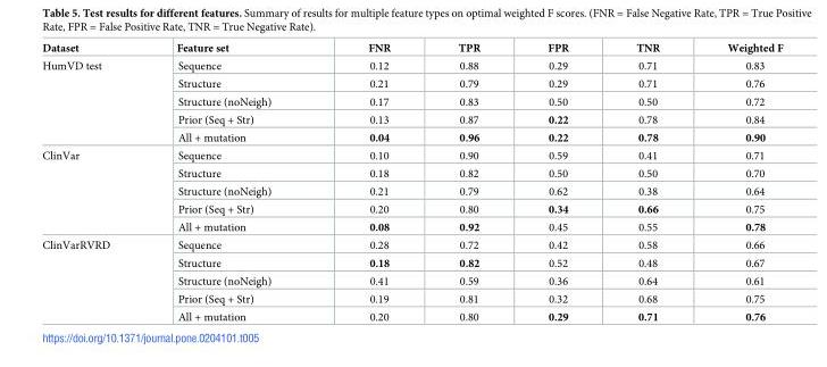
<table><thead><tr><td>Dataset</td><td>Feature set</td><td>FNR</td><td>TPR</td><td>FPR</td><td>TNR</td><td>Weighted F</td></tr></thead><tbody><tr><td rowspan="5">HumVD test</td><td>Sequence</td><td>0.12</td><td>0.88</td><td>0.29</td><td>0.71</td><td>0.83</td></tr><tr><td>Structure</td><td>0.21</td><td>0.79</td><td>0.29</td><td>0.71</td><td>0.76</td></tr><tr><td>Structure (noNeigh)</td><td>0.17</td><td>0.83</td><td>0.50</td><td>0.50</td><td>0.72</td></tr><tr><td>Prior (Seq + Str)</td><td>0.13</td><td>0.87</td><td>0.22</td><td>0.78</td><td>0.84</td></tr><tr><td>All + mutation</td><td>0.04</td><td>0.96</td><td>0.22</td><td>0.78</td><td>0.90</td></tr><tr><td rowspan="5">ClinVar</td><td>Sequence</td><td>0.10</td><td>0.90</td><td>0.59</td><td>0.41</td><td>0.71</td></tr><tr><td>Structure</td><td>0.18</td><td>0.82</td><td>0.50</td><td>0.50</td><td>0.70</td></tr><tr><td>Structure (noNeigh)</td><td>0.21</td><td>0.79</td><td>0.62</td><td>0.38</td><td>0.64</td></tr><tr><td>Prior (Seq + Str)</td><td>0.20</td><td>0.80</td><td>0.34</td><td>0.66</td><td>0.75</td></tr><tr><td>All + mutation</td><td>0.08</td><td>0.92</td><td>0.45</td><td>0.55</td><td>0.78</td></tr><tr><td rowspan="5">ClinVarRVRD</td><td>Sequence</td><td>0.28</td><td>0.72</td><td>0.42</td><td>0.58</td><td>0.66</td></tr><tr><td>Structure</td><td>0.18</td><td>0.82</td><td>0.52</td><td>0.48</td><td>0.67</td></tr><tr><td>Structure (noNeigh)</td><td>0.41</td><td>0.59</td><td>0.36</td><td>0.64</td><td>0.61</td></tr><tr><td>Prior (Seq + Str)</td><td>0.19</td><td>0.81</td><td>0.32</td><td>0.68</td><td>0.75</td></tr><tr><td>All + mutation</td><td>0.20</td><td>0.80</td><td>0.29</td><td>0.71</td><td>0.76</td></tr></tbody></table>